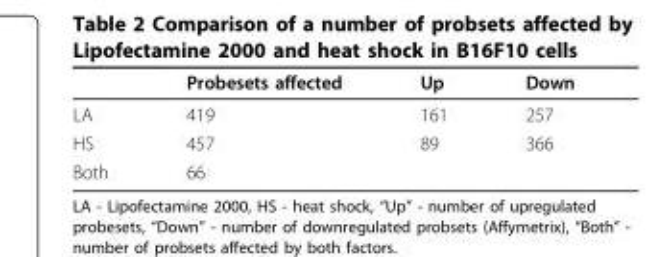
<table><thead><tr><td></td><td>Probesets affected</td><td>Up</td><td>Down</td></tr></thead><tbody><tr><td>LA</td><td>419</td><td>161</td><td>257</td></tr><tr><td>HS</td><td>457</td><td>89</td><td>366</td></tr><tr><td>Both</td><td>66</td><td></td><td></td></tr></tbody></table>